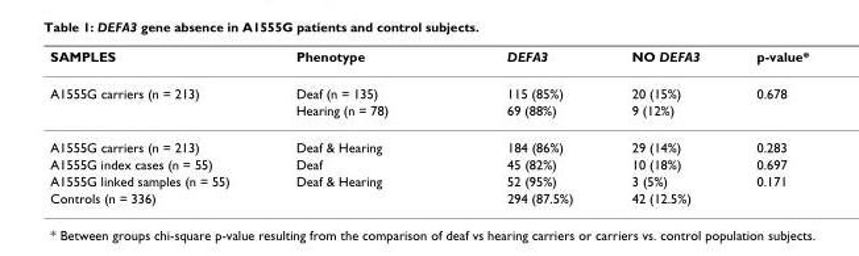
<table><thead><tr><td>SAMPLES</td><td>Phenotype</td><td>DEFA3</td><td>NO DEFA3</td><td>p-value*</td></tr></thead><tbody><tr><td rowspan="2">A1555G carriers (n = 213)</td><td>Deaf (n = 135)</td><td>115 (85%)</td><td>20 (15%)</td><td>0.678</td></tr><tr><td>Hearing (n = 78)</td><td>69 (88%)</td><td>9 (12%)</td><td></td></tr><tr><td>A1555G carriers (n = 213)</td><td>Deaf &amp; Hearing</td><td>184 (86%)</td><td>29 (14%)</td><td>0.283</td></tr><tr><td>A1555G index cases (n = 55)</td><td>Deaf</td><td>45 (82%)</td><td>10 (18%)</td><td>0.697</td></tr><tr><td>A1555G linked samples (n = 55)</td><td>Deaf &amp; Hearing</td><td>52 (95%)</td><td>3 (5%)</td><td>0.171</td></tr><tr><td>Controls (n = 336)</td><td></td><td>294 (87.5%)</td><td>42 (12.5%)</td><td></td></tr></tbody></table>